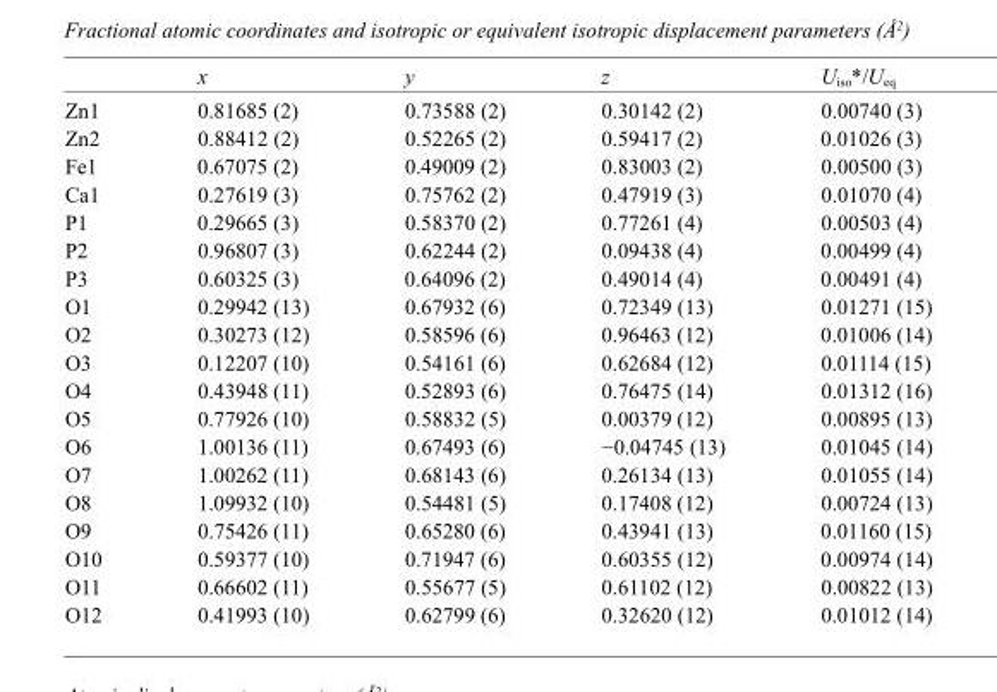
<table><thead><tr><td></td><td>x</td><td>y</td><td>z</td><td>U<sub>iso</sub>*/U<sub>eq</sub></td></tr></thead><tbody><tr><td>Zn1</td><td>0.81685 (2)</td><td>0.73588 (2)</td><td>0.30142 (2)</td><td>0.00740 (3)</td></tr><tr><td>Zn2</td><td>0.88412 (2)</td><td>0.52265 (2)</td><td>0.59417 (2)</td><td>0.01026 (3)</td></tr><tr><td>Fe1</td><td>0.67075 (2)</td><td>0.49009 (2)</td><td>0.83003 (2)</td><td>0.00500 (3)</td></tr><tr><td>Ca1</td><td>0.27619 (3)</td><td>0.75762 (2)</td><td>0.47919 (3)</td><td>0.01070 (4)</td></tr><tr><td>P1</td><td>0.29665 (3)</td><td>0.58370 (2)</td><td>0.77261 (4)</td><td>0.00503 (4)</td></tr><tr><td>P2</td><td>0.96807 (3)</td><td>0.62244 (2)</td><td>0.09438 (4)</td><td>0.00499 (4)</td></tr><tr><td>P3</td><td>0.60325 (3)</td><td>0.64096 (2)</td><td>0.49014 (4)</td><td>0.00491 (4)</td></tr><tr><td>O1</td><td>0.29942 (13)</td><td>0.67932 (6)</td><td>0.72349 (13)</td><td>0.01271 (15)</td></tr><tr><td>O2</td><td>0.30273 (12)</td><td>0.58596 (6)</td><td>0.96463 (12)</td><td>0.01006 (14)</td></tr><tr><td>O3</td><td>0.12207 (10)</td><td>0.54161 (6)</td><td>0.62684 (12)</td><td>0.01114 (15)</td></tr><tr><td>O4</td><td>0.43948 (11)</td><td>0.52893 (6)</td><td>0.76475 (14)</td><td>0.01312 (16)</td></tr><tr><td>O5</td><td>0.77926 (10)</td><td>0.58832 (5)</td><td>0.00379 (12)</td><td>0.00895 (13)</td></tr><tr><td>O6</td><td>1.00136 (11)</td><td>0.67493 (6)</td><td>−0.04745 (13)</td><td>0.01045 (14)</td></tr><tr><td>O7</td><td>1.00262 (11)</td><td>0.68143 (6)</td><td>0.26134 (13)</td><td>0.01055 (14)</td></tr><tr><td>O8</td><td>1.09932 (10)</td><td>0.54481 (5)</td><td>0.17408 (12)</td><td>0.00724 (13)</td></tr><tr><td>O9</td><td>0.75426 (11)</td><td>0.65280 (6)</td><td>0.43941 (13)</td><td>0.01160 (15)</td></tr><tr><td>O10</td><td>0.59377 (10)</td><td>0.71947 (6)</td><td>0.60355 (12)</td><td>0.00974 (14)</td></tr><tr><td>O11</td><td>0.66602 (11)</td><td>0.55677 (5)</td><td>0.61102 (12)</td><td>0.00822 (13)</td></tr><tr><td>O12</td><td>0.41993 (10)</td><td>0.62799 (6)</td><td>0.32620 (12)</td><td>0.01012 (14)</td></tr></tbody></table>